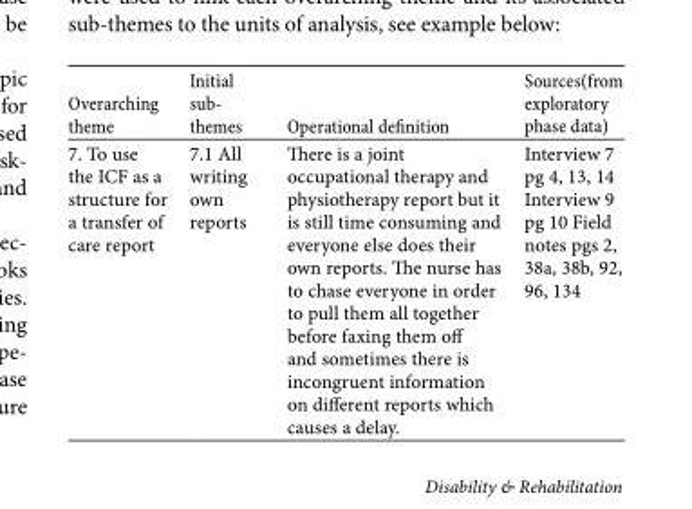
<table><thead><tr><td>Overarching theme</td><td>Initial sub- themes</td><td>Operational definition</td><td>Sources(from exploratory phase data)</td></tr></thead><tbody><tr><td>7. To use the ICF as a structure for a transfer of care report</td><td>7.1 All writing own reports</td><td>There is a joint occupational therapy and physiotherapy report but it is still time consuming and everyone else does their own reports. The nurse has to chase everyone in order to pull them all together before faxing them off and sometimes there is incongruent information on different reports which causes a delay.</td><td>Interview 7 pg 4, 13, 14 Interview 9 pg 10 Field notes pgs 2, 38a, 38b, 92, 96, 134</td></tr></tbody></table>